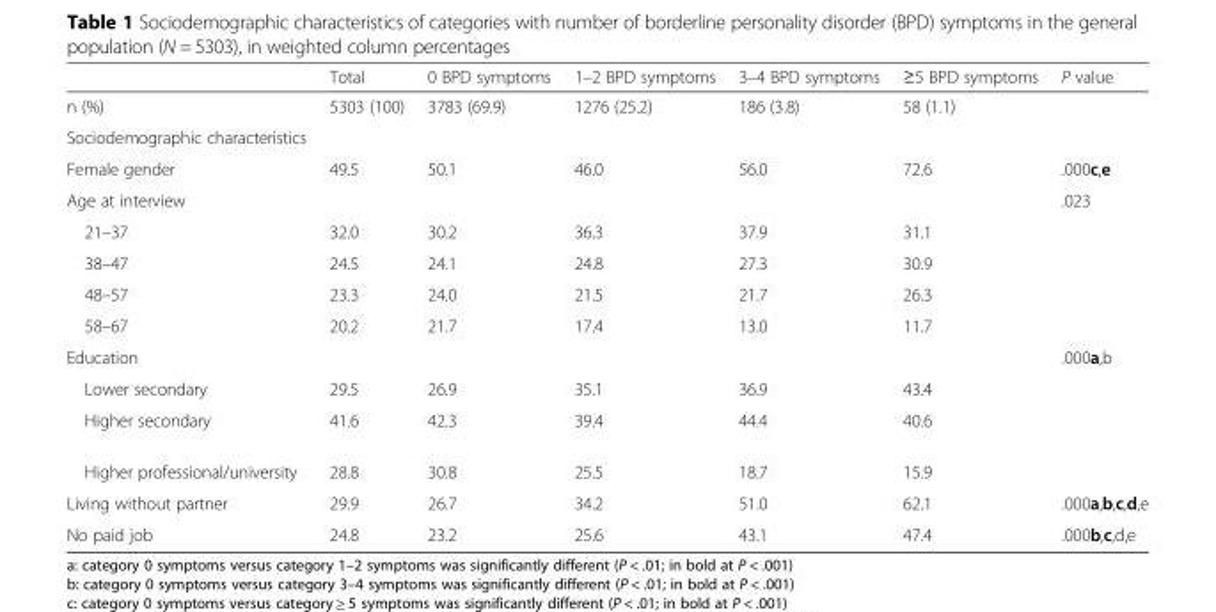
<table><thead><tr><td></td><td>Total</td><td>0 BPD symptoms</td><td>1–2 BPD symptoms</td><td>3–4 BPD symptoms</td><td>≥5 BPD symptoms</td><td>P value</td></tr></thead><tbody><tr><td>n (%)</td><td>5303 (100)</td><td>3783 (69.9)</td><td>1276 (25.2)</td><td>186 (3.8)</td><td>58 (1.1)</td><td></td></tr><tr><td colspan="7">Sociodemographic characteristics</td></tr><tr><td>Female gender</td><td>49.5</td><td>50.1</td><td>46.0</td><td>56.0</td><td>72.6</td><td>.000c,e</td></tr><tr><td>Age at interview</td><td></td><td></td><td></td><td></td><td></td><td>.023</td></tr><tr><td>21–37</td><td>32.0</td><td>30.2</td><td>36.3</td><td>37.9</td><td>31.1</td><td></td></tr><tr><td>38–47</td><td>24.5</td><td>24.1</td><td>24.8</td><td>27.3</td><td>30.9</td><td></td></tr><tr><td>48–57</td><td>23.3</td><td>24.0</td><td>21.5</td><td>21.7</td><td>26.3</td><td></td></tr><tr><td>58–67</td><td>20.2</td><td>21.7</td><td>17.4</td><td>13.0</td><td>11.7</td><td></td></tr><tr><td>Education</td><td></td><td></td><td></td><td></td><td></td><td>.000a,b</td></tr><tr><td>Lower secondary</td><td>29.5</td><td>26.9</td><td>35.1</td><td>36.9</td><td>43.4</td><td></td></tr><tr><td>Higher secondary</td><td>41.6</td><td>42.3</td><td>39.4</td><td>44.4</td><td>40.6</td><td></td></tr><tr><td>Higher professional/university</td><td>28.8</td><td>30.8</td><td>25.5</td><td>18.7</td><td>15.9</td><td></td></tr><tr><td>Living without partner</td><td>29.9</td><td>26.7</td><td>34.2</td><td>51.0</td><td>62.1</td><td>.000a,b,c,d,e</td></tr><tr><td>No paid job</td><td>24.8</td><td>23.2</td><td>25.6</td><td>43.1</td><td>47.4</td><td>.000b,c,d,e</td></tr></tbody></table>